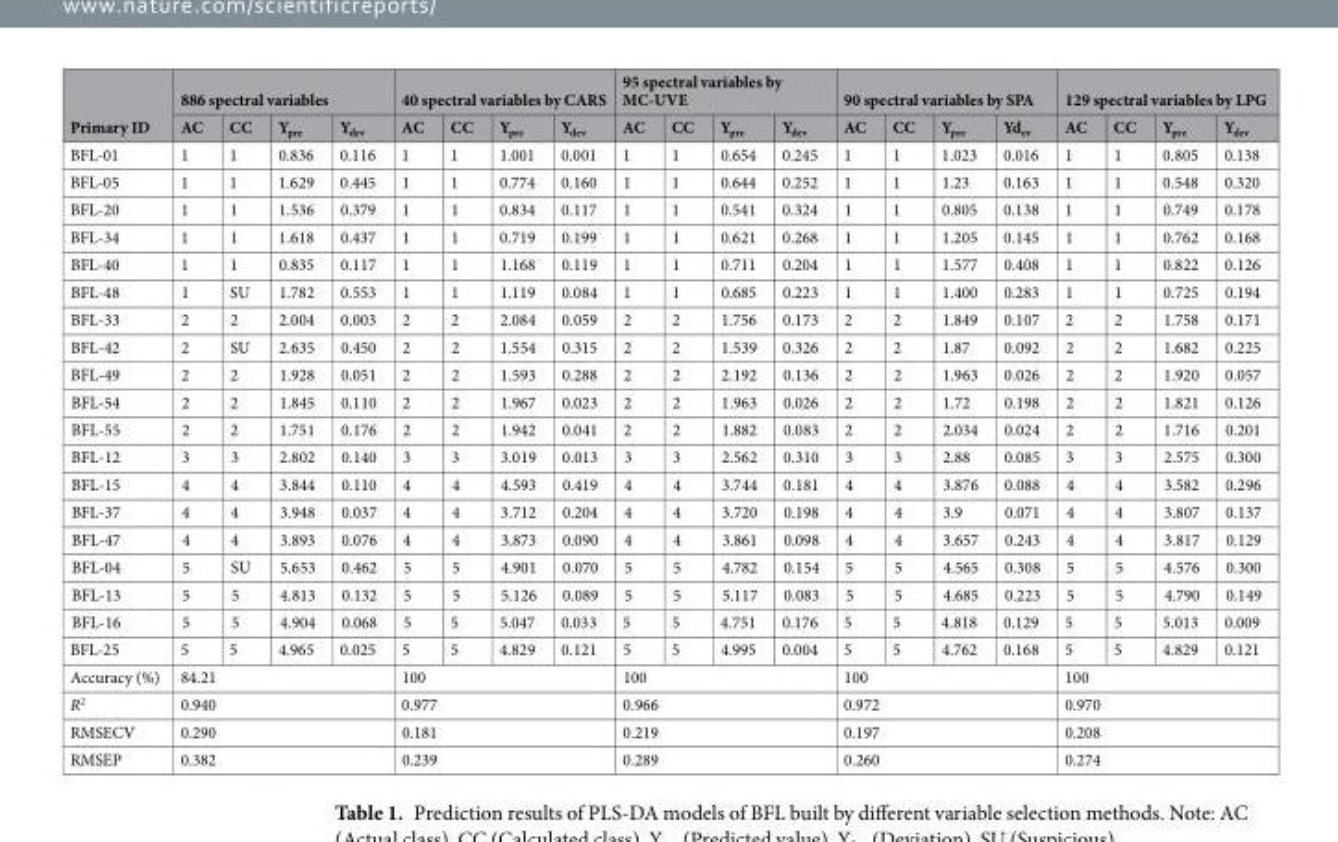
<table><thead><tr><td rowspan="2">Primary ID</td><td colspan="4">886 spectral variables</td><td colspan="4">40 spectral variables by CARS</td><td colspan="4">95 spectral variables by MC-UVE</td><td colspan="4">90 spectral variables by SPA</td><td colspan="4">129 spectral variables by LPG</td></tr><tr><td>AC</td><td>CC</td><td>Y<sub>pre</sub></td><td>Y<sub>dev</sub></td><td>AC</td><td>CC</td><td>Y<sub>pre</sub></td><td>Y<sub>dev</sub></td><td>AC</td><td>CC</td><td>Y<sub>pre</sub></td><td>Y<sub>dev</sub></td><td>AC</td><td>CC</td><td>Y<sub>pre</sub></td><td>Yd<sub>ev</sub></td><td>AC</td><td>CC</td><td>Y<sub>pre</sub></td><td>Y<sub>dev</sub></td></tr></thead><tbody><tr><td>BFL-01</td><td>1</td><td>1</td><td>0.836</td><td>0.116</td><td>1</td><td>1</td><td>1.001</td><td>0.001</td><td>1</td><td>1</td><td>0.654</td><td>0.245</td><td>1</td><td>1</td><td>1.023</td><td>0.016</td><td>1</td><td>1</td><td>0.805</td><td>0.138</td></tr><tr><td>BFL-05</td><td>1</td><td>1</td><td>1.629</td><td>0.445</td><td>1</td><td>1</td><td>0.774</td><td>0.160</td><td>1</td><td>1</td><td>0.644</td><td>0.252</td><td>1</td><td>1</td><td>1.23</td><td>0.163</td><td>1</td><td>1</td><td>0.548</td><td>0.320</td></tr><tr><td>BFL-20</td><td>1</td><td>1</td><td>1.536</td><td>0.379</td><td>1</td><td>1</td><td>0.834</td><td>0.117</td><td>1</td><td>1</td><td>0.541</td><td>0.324</td><td>1</td><td>1</td><td>0.805</td><td>0.138</td><td>1</td><td>1</td><td>0.749</td><td>0.178</td></tr><tr><td>BFL-34</td><td>1</td><td>1</td><td>1.618</td><td>0.437</td><td>1</td><td>1</td><td>0.719</td><td>0.199</td><td>1</td><td>1</td><td>0.621</td><td>0.268</td><td>1</td><td>1</td><td>1.205</td><td>0.145</td><td>1</td><td>1</td><td>0.762</td><td>0.168</td></tr><tr><td>BFL-40</td><td>1</td><td>1</td><td>0.835</td><td>0.117</td><td>1</td><td>1</td><td>1.168</td><td>0.119</td><td>1</td><td>1</td><td>0.711</td><td>0.204</td><td>1</td><td>1</td><td>1.577</td><td>0.408</td><td>1</td><td>1</td><td>0.822</td><td>0.126</td></tr><tr><td>BFL-48</td><td>1</td><td>SU</td><td>1.782</td><td>0.553</td><td>1</td><td>1</td><td>1.119</td><td>0.084</td><td>1</td><td>1</td><td>0.685</td><td>0.223</td><td>1</td><td>1</td><td>1.400</td><td>0.283</td><td>1</td><td>1</td><td>0.725</td><td>0.194</td></tr><tr><td>BFL-33</td><td>2</td><td>2</td><td>2.004</td><td>0.003</td><td>2</td><td>2</td><td>2.084</td><td>0.059</td><td>2</td><td>2</td><td>1.756</td><td>0.173</td><td>2</td><td>2</td><td>1.849</td><td>0.107</td><td>2</td><td>2</td><td>1.758</td><td>0.171</td></tr><tr><td>BFL-42</td><td>2</td><td>SU</td><td>2.635</td><td>0.450</td><td>2</td><td>2</td><td>1.554</td><td>0.315</td><td>2</td><td>2</td><td>1.539</td><td>0.326</td><td>2</td><td>2</td><td>1.87</td><td>0.092</td><td>2</td><td>2</td><td>1.682</td><td>0.225</td></tr><tr><td>BFL-49</td><td>2</td><td>2</td><td>1.928</td><td>0.051</td><td>2</td><td>2</td><td>1.593</td><td>0.288</td><td>2</td><td>2</td><td>2.192</td><td>0.136</td><td>2</td><td>2</td><td>1.963</td><td>0.026</td><td>2</td><td>2</td><td>1.920</td><td>0.057</td></tr><tr><td>BFL-54</td><td>2</td><td>2</td><td>1.845</td><td>0.110</td><td>2</td><td>2</td><td>1.967</td><td>0.023</td><td>2</td><td>2</td><td>1.963</td><td>0.026</td><td>2</td><td>2</td><td>1.72</td><td>0.198</td><td>2</td><td>2</td><td>1.821</td><td>0.126</td></tr><tr><td>BFL-55</td><td>2</td><td>2</td><td>1.751</td><td>0.176</td><td>2</td><td>2</td><td>1.942</td><td>0.041</td><td>2</td><td>2</td><td>1.882</td><td>0.083</td><td>2</td><td>2</td><td>2.034</td><td>0.024</td><td>2</td><td>2</td><td>1.716</td><td>0.201</td></tr><tr><td>BFL-12</td><td>3</td><td>3</td><td>2.802</td><td>0.140</td><td>3</td><td>3</td><td>3.019</td><td>0.013</td><td>3</td><td>3</td><td>2.562</td><td>0.310</td><td>3</td><td>3</td><td>2.88</td><td>0.085</td><td>3</td><td>3</td><td>2.575</td><td>0.300</td></tr><tr><td>BFL-15</td><td>4</td><td>4</td><td>3.844</td><td>0.110</td><td>4</td><td>4</td><td>4.593</td><td>0.419</td><td>4</td><td>4</td><td>3.744</td><td>0.181</td><td>4</td><td>4</td><td>3.876</td><td>0.088</td><td>4</td><td>4</td><td>3.582</td><td>0.296</td></tr><tr><td>BFL-37</td><td>4</td><td>4</td><td>3.948</td><td>0.037</td><td>4</td><td>4</td><td>3.712</td><td>0.204</td><td>4</td><td>4</td><td>3.720</td><td>0.198</td><td>4</td><td>4</td><td>3.9</td><td>0.071</td><td>4</td><td>4</td><td>3.807</td><td>0.137</td></tr><tr><td>BFL-47</td><td>4</td><td>4</td><td>3.893</td><td>0.076</td><td>4</td><td>4</td><td>3.873</td><td>0.090</td><td>4</td><td>4</td><td>3.861</td><td>0.098</td><td>4</td><td>4</td><td>3.657</td><td>0.243</td><td>4</td><td>4</td><td>3.817</td><td>0.129</td></tr><tr><td>BFL-04</td><td>5</td><td>SU</td><td>5.653</td><td>0.462</td><td>5</td><td>5</td><td>4.901</td><td>0.070</td><td>5</td><td>5</td><td>4.782</td><td>0.154</td><td>5</td><td>5</td><td>4.565</td><td>0.308</td><td>5</td><td>5</td><td>4.576</td><td>0.300</td></tr><tr><td>BFL-13</td><td>5</td><td>5</td><td>4.813</td><td>0.132</td><td>5</td><td>5</td><td>5.126</td><td>0.089</td><td>5</td><td>5</td><td>5.117</td><td>0.083</td><td>5</td><td>5</td><td>4.685</td><td>0.223</td><td>5</td><td>5</td><td>4.790</td><td>0.149</td></tr><tr><td>BFL-16</td><td>5</td><td>5</td><td>4.904</td><td>0.068</td><td>5</td><td>5</td><td>5.047</td><td>0.033</td><td>5</td><td>5</td><td>4.751</td><td>0.176</td><td>5</td><td>5</td><td>4.818</td><td>0.129</td><td>5</td><td>5</td><td>5.013</td><td>0.009</td></tr><tr><td>BFL-25</td><td>5</td><td>5</td><td>4.965</td><td>0.025</td><td>5</td><td>5</td><td>4.829</td><td>0.121</td><td>5</td><td>5</td><td>4.995</td><td>0.004</td><td>5</td><td>5</td><td>4.762</td><td>0.168</td><td>5</td><td>5</td><td>4.829</td><td>0.121</td></tr><tr><td>Accuracy (%)</td><td colspan="4">84.21</td><td colspan="4">100</td><td colspan="4">100</td><td colspan="4">100</td><td colspan="4">100</td></tr><tr><td>R<sup>2</sup></td><td colspan="4">0.940</td><td colspan="4">0.977</td><td colspan="4">0.966</td><td colspan="4">0.972</td><td colspan="4">0.970</td></tr><tr><td>RMSECV</td><td colspan="4">0.290</td><td colspan="4">0.181</td><td colspan="4">0.219</td><td colspan="4">0.197</td><td colspan="4">0.208</td></tr><tr><td>RMSEP</td><td colspan="4">0.382</td><td colspan="4">0.239</td><td colspan="4">0.289</td><td colspan="4">0.260</td><td colspan="4">0.274</td></tr></tbody></table>